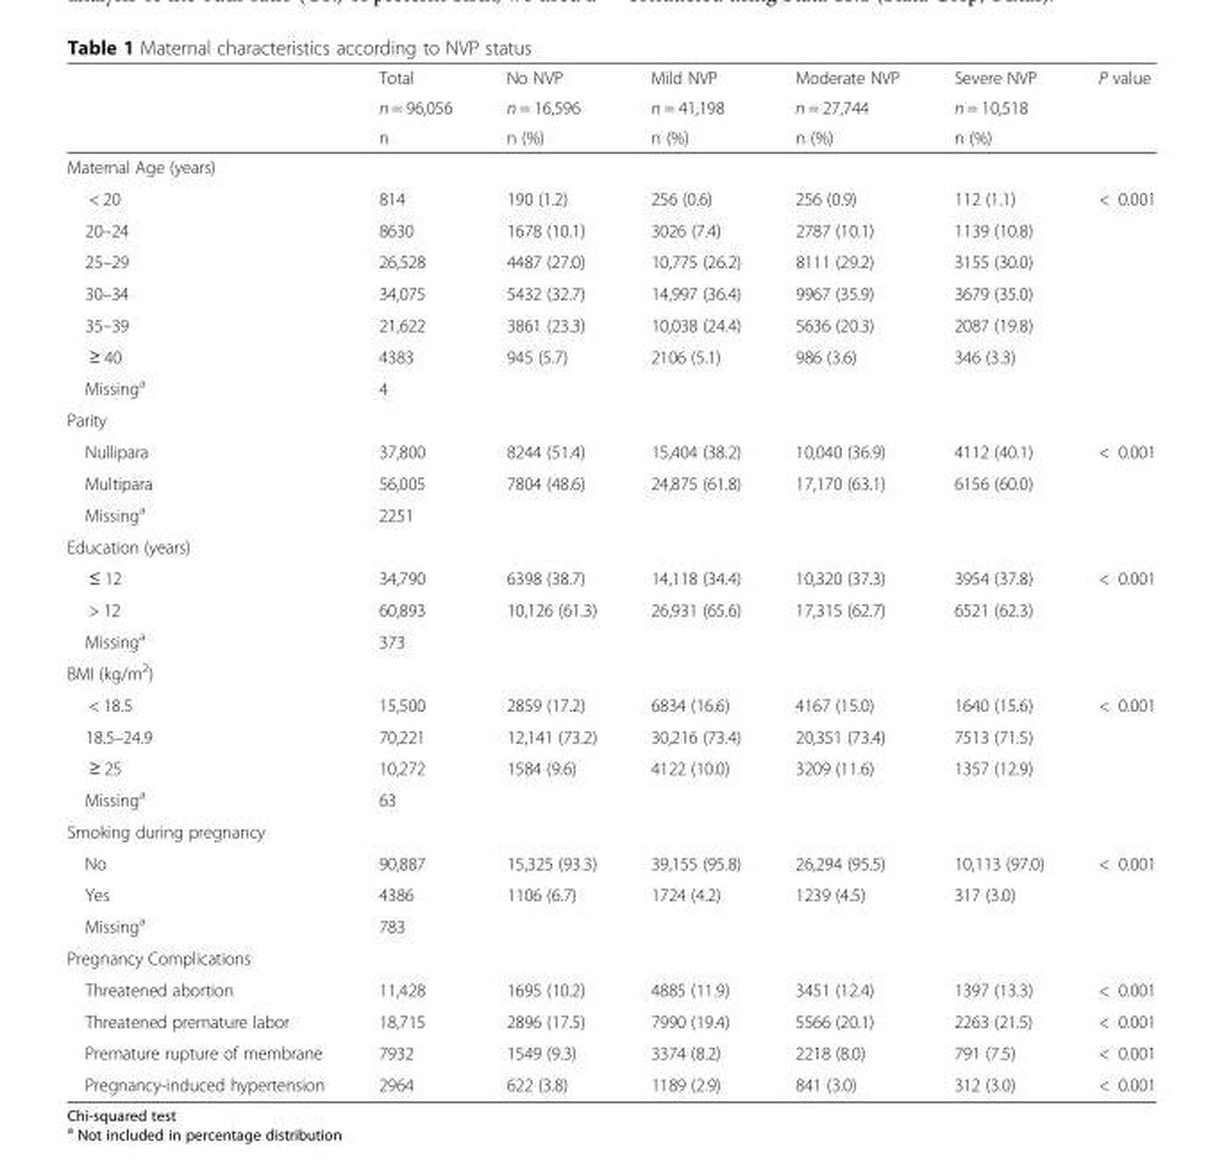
<table><thead><tr><td rowspan="3"></td><td rowspan="3">Total n = 96,056 n</td><td rowspan="3">No NVP n = 16,596 n (%)</td><td rowspan="3">Mild NVP n = 41,198 n (%)</td><td rowspan="3">Moderate NVP n = 27,744 n (%)</td><td rowspan="3">Severe NVP n = 10,518 n (%)</td><td rowspan="3">P value</td></tr><tr></tr><tr></tr></thead><tbody><tr><td colspan="7">Maternal Age (years)</td></tr><tr><td>&lt; 20</td><td>814</td><td>190 (1.2)</td><td>256 (0.6)</td><td>256 (0.9)</td><td>112 (1.1)</td><td>&lt; 0.001</td></tr><tr><td>20–24</td><td>8630</td><td>1678 (10.1)</td><td>3026 (7.4)</td><td>2787 (10.1)</td><td>1139 (10.8)</td><td></td></tr><tr><td>25–29</td><td>26,528</td><td>4487 (27.0)</td><td>10,775 (26.2)</td><td>8111 (29.2)</td><td>3155 (30.0)</td><td></td></tr><tr><td>30–34</td><td>34,075</td><td>5432 (32.7)</td><td>14,997 (36.4)</td><td>9967 (35.9)</td><td>3679 (35.0)</td><td></td></tr><tr><td>35–39</td><td>21,622</td><td>3861 (23.3)</td><td>10,038 (24.4)</td><td>5636 (20.3)</td><td>2087 (19.8)</td><td></td></tr><tr><td>≥ 40</td><td>4383</td><td>945 (5.7)</td><td>2106 (5.1)</td><td>986 (3.6)</td><td>346 (3.3)</td><td></td></tr><tr><td>Missing<sup>a</sup></td><td>4</td><td></td><td></td><td></td><td></td><td></td></tr><tr><td colspan="7">Parity</td></tr><tr><td>Nullipara</td><td>37,800</td><td>8244 (51.4)</td><td>15,404 (38.2)</td><td>10,040 (36.9)</td><td>4112 (40.1)</td><td>&lt; 0.001</td></tr><tr><td>Multipara</td><td>56,005</td><td>7804 (48.6)</td><td>24,875 (61.8)</td><td>17,170 (63.1)</td><td>6156 (60.0)</td><td></td></tr><tr><td>Missing<sup>a</sup></td><td>2251</td><td></td><td></td><td></td><td></td><td></td></tr><tr><td colspan="7">Education (years)</td></tr><tr><td>≤ 12</td><td>34,790</td><td>6398 (38.7)</td><td>14,118 (34.4)</td><td>10,320 (37.3)</td><td>3954 (37.8)</td><td>&lt; 0.001</td></tr><tr><td>&gt; 12</td><td>60,893</td><td>10,126 (61.3)</td><td>26,931 (65.6)</td><td>17,315 (62.7)</td><td>6521 (62.3)</td><td></td></tr><tr><td>Missing<sup>a</sup></td><td>373</td><td></td><td></td><td></td><td></td><td></td></tr><tr><td colspan="7">BMI (kg/m<sup>2</sup>)</td></tr><tr><td>&lt; 18.5</td><td>15,500</td><td>2859 (17.2)</td><td>6834 (16.6)</td><td>4167 (15.0)</td><td>1640 (15.6)</td><td>&lt; 0.001</td></tr><tr><td>18.5–24.9</td><td>70,221</td><td>12,141 (73.2)</td><td>30,216 (73.4)</td><td>20,351 (73.4)</td><td>7513 (71.5)</td><td></td></tr><tr><td>≥ 25</td><td>10,272</td><td>1584 (9.6)</td><td>4122 (10.0)</td><td>3209 (11.6)</td><td>1357 (12.9)</td><td></td></tr><tr><td>Missing<sup>a</sup></td><td>63</td><td></td><td></td><td></td><td></td><td></td></tr><tr><td colspan="7">Smoking during pregnancy</td></tr><tr><td>No</td><td>90,887</td><td>15,325 (93.3)</td><td>39,155 (95.8)</td><td>26,294 (95.5)</td><td>10,113 (97.0)</td><td>&lt; 0.001</td></tr><tr><td>Yes</td><td>4386</td><td>1106 (6.7)</td><td>1724 (4.2)</td><td>1239 (4.5)</td><td>317 (3.0)</td><td></td></tr><tr><td>Missing<sup>a</sup></td><td>783</td><td></td><td></td><td></td><td></td><td></td></tr><tr><td colspan="7">Pregnancy Complications</td></tr><tr><td>Threatened abortion</td><td>11,428</td><td>1695 (10.2)</td><td>4885 (11.9)</td><td>3451 (12.4)</td><td>1397 (13.3)</td><td>&lt; 0.001</td></tr><tr><td>Threatened premature labor</td><td>18,715</td><td>2896 (17.5)</td><td>7990 (19.4)</td><td>5566 (20.1)</td><td>2263 (21.5)</td><td>&lt; 0.001</td></tr><tr><td>Premature rupture of membrane</td><td>7932</td><td>1549 (9.3)</td><td>3374 (8.2)</td><td>2218 (8.0)</td><td>791 (7.5)</td><td>&lt; 0.001</td></tr><tr><td>Pregnancy-induced hypertension</td><td>2964</td><td>622 (3.8)</td><td>1189 (2.9)</td><td>841 (3.0)</td><td>312 (3.0)</td><td>&lt; 0.001</td></tr></tbody></table>